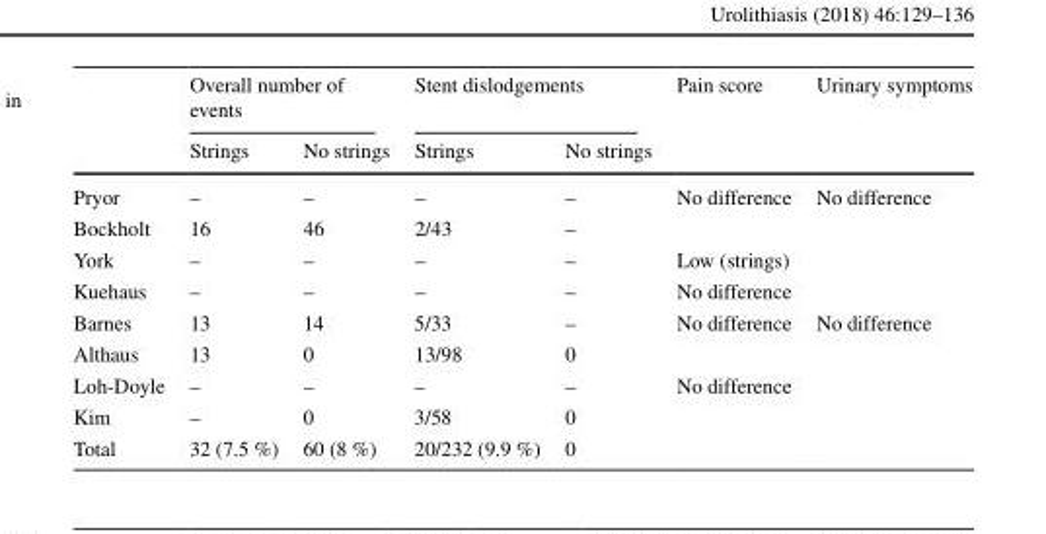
<table><thead><tr><td rowspan="2"></td><td colspan="2">Overall number of events</td><td colspan="2">Stent dislodgements</td><td rowspan="2">Pain score</td><td rowspan="2">Urinary symptoms</td></tr><tr><td>Strings</td><td>No strings</td><td>Strings</td><td>No strings</td></tr></thead><tbody><tr><td>Pryor</td><td>–</td><td>–</td><td>–</td><td>–</td><td>No difference</td><td>No difference</td></tr><tr><td>Bockholt</td><td>16</td><td>46</td><td>2/43</td><td>–</td><td></td><td></td></tr><tr><td>York</td><td>–</td><td>–</td><td>–</td><td>–</td><td>Low (strings)</td><td></td></tr><tr><td>Kuehaus</td><td>–</td><td>–</td><td>–</td><td>–</td><td>No difference</td><td></td></tr><tr><td>Barnes</td><td>13</td><td>14</td><td>5/33</td><td>–</td><td>No difference</td><td>No difference</td></tr><tr><td>Althaus</td><td>13</td><td>0</td><td>13/98</td><td>0</td><td></td><td></td></tr><tr><td>Loh-Doyle</td><td>–</td><td>–</td><td>–</td><td>–</td><td>No difference</td><td></td></tr><tr><td>Kim</td><td>–</td><td>0</td><td>3/58</td><td>0</td><td></td><td></td></tr><tr><td>Total</td><td>32 (7.5 %)</td><td>60 (8 %)</td><td>20/232 (9.9 %)</td><td>0</td><td></td><td></td></tr></tbody></table>